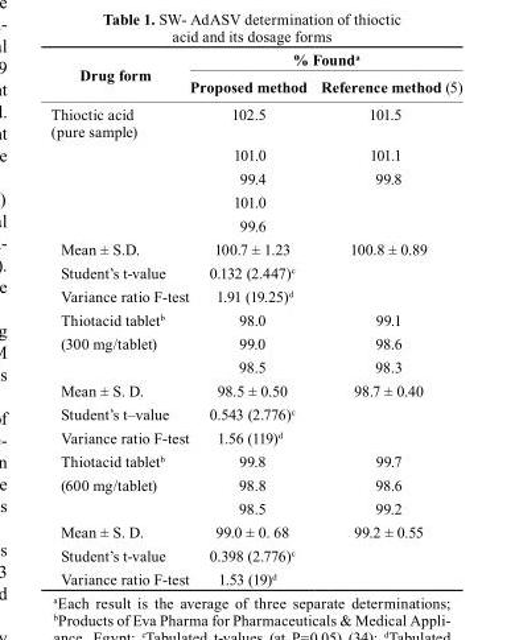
<table><thead><tr><td rowspan="2">Drug form</td><td colspan="2">% Found<sup>a</sup></td></tr><tr><td>Proposed method</td><td>reference method (5)</td></tr></thead><tbody><tr><td rowspan="5">Thioctic acid (pure sample)</td><td>102.5</td><td>101.5</td></tr><tr><td>101.0</td><td>101.1</td></tr><tr><td>99.4</td><td>99.8</td></tr><tr><td>101.0</td><td></td></tr><tr><td>99.6</td><td></td></tr><tr><td>Mean ± S.D.</td><td>100.7 ± 1.23</td><td>100.8 ± 0.89</td></tr><tr><td>Student’s t-value</td><td>0.132 (2.447)<sup>c</sup></td><td></td></tr><tr><td>Variance ratio F-test</td><td>1.91 (19.25)<sup>d</sup></td><td></td></tr><tr><td>Thiotacid tablet<sup>b</sup></td><td>98.0</td><td>99.1</td></tr><tr><td rowspan="2">(300 mg/tablet)</td><td>99.0</td><td>98.6</td></tr><tr><td>98.5</td><td>98.3</td></tr><tr><td>Mean ± S. D.</td><td>98.5 ± 0.50</td><td>98.7 ± 0.40</td></tr><tr><td>Student’s t–value</td><td>0.543 (2.776)<sup>c</sup></td><td></td></tr><tr><td>Variance ratio F-test</td><td>1.56 (119)<sup>d</sup></td><td></td></tr><tr><td>Thiotacid tablet<sup>b</sup></td><td>99.8</td><td>99.7</td></tr><tr><td rowspan="2">(600 mg/tablet)</td><td>98.8</td><td>98.6</td></tr><tr><td>98.5</td><td>99.2</td></tr><tr><td>Mean ± S. D.</td><td>99.0 ± 0. 68</td><td>99.2 ± 0.55</td></tr><tr><td>Student’s t-value</td><td>0.398 (2.776)<sup>c</sup></td><td></td></tr><tr><td>Variance ratio F-test</td><td>1.53 (19)<sup>d</sup></td><td></td></tr></tbody></table>